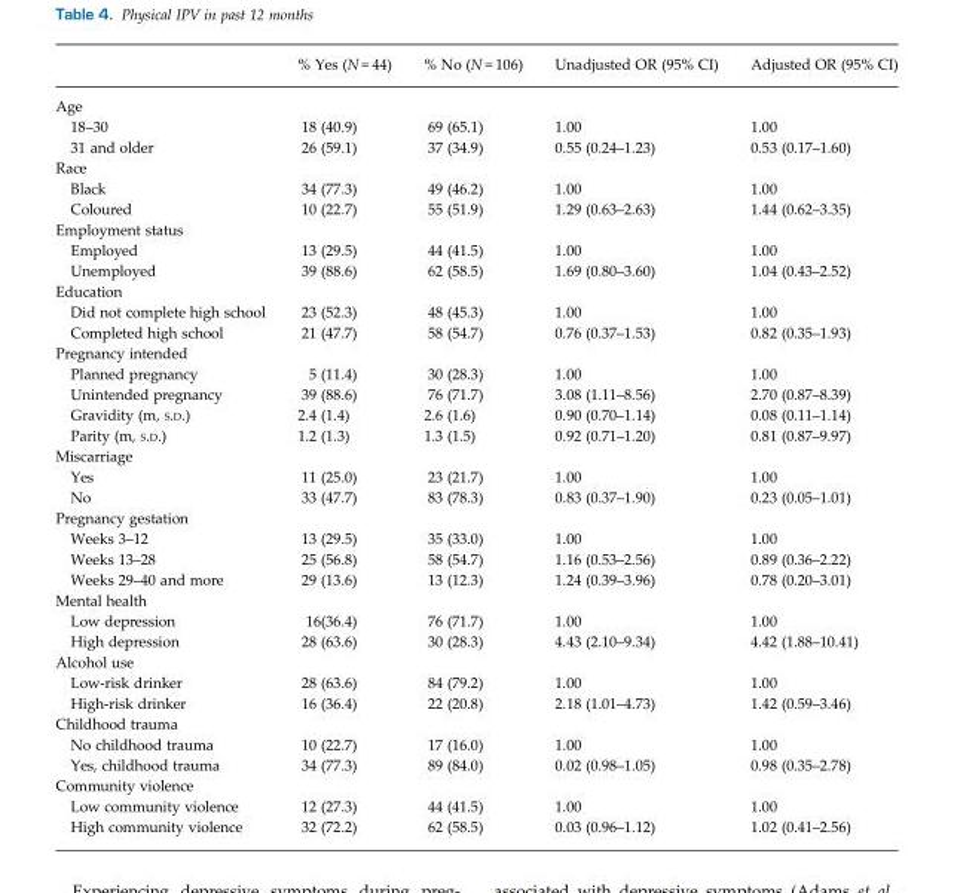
<table><thead><tr><td></td><td>% Yes (N = 44)</td><td>% No (N = 106)</td><td>Unadjusted OR (95% CI)</td><td>Adjusted OR (95% CI)</td></tr></thead><tbody><tr><td colspan="5">Age</td></tr><tr><td>18–30</td><td>18 (40.9)</td><td>69 (65.1)</td><td>1.00</td><td>1.00</td></tr><tr><td>31 and older</td><td>26 (59.1)</td><td>37 (34.9)</td><td>0.55 (0.24–1.23)</td><td>0.53 (0.17–1.60)</td></tr><tr><td colspan="5">Race</td></tr><tr><td>Black</td><td>34 (77.3)</td><td>49 (46.2)</td><td>1.00</td><td>1.00</td></tr><tr><td>Coloured</td><td>10 (22.7)</td><td>55 (51.9)</td><td>1.29 (0.63–2.63)</td><td>1.44 (0.62–3.35)</td></tr><tr><td colspan="5">Employment status</td></tr><tr><td>Employed</td><td>13 (29.5)</td><td>44 (41.5)</td><td>1.00</td><td>1.00</td></tr><tr><td>Unemployed</td><td>39 (88.6)</td><td>62 (58.5)</td><td>1.69 (0.80–3.60)</td><td>1.04 (0.43–2.52)</td></tr><tr><td colspan="5">Education</td></tr><tr><td>Did not complete high school</td><td>23 (52.3)</td><td>48 (45.3)</td><td>1.00</td><td>1.00</td></tr><tr><td>Completed high school</td><td>21 (47.7)</td><td>58 (54.7)</td><td>0.76 (0.37–1.53)</td><td>0.82 (0.35–1.93)</td></tr><tr><td colspan="5">Pregnancy intended</td></tr><tr><td>Planned pregnancy</td><td>5 (11.4)</td><td>30 (28.3)</td><td>1.00</td><td>1.00</td></tr><tr><td>Unintended pregnancy</td><td>39 (88.6)</td><td>76 (71.7)</td><td>3.08 (1.11–8.56)</td><td>2.70 (0.87–8.39)</td></tr><tr><td>Gravidity (m, S.D.)</td><td>2.4 (1.4)</td><td>2.6 (1.6)</td><td>0.90 (0.70–1.14)</td><td>0.08 (0.11–1.14)</td></tr><tr><td>Parity (m, S.D.)</td><td>1.2 (1.3)</td><td>1.3 (1.5)</td><td>0.92 (0.71–1.20)</td><td>0.81 (0.87–9.97)</td></tr><tr><td colspan="5">Miscarriage</td></tr><tr><td>Yes</td><td>11 (25.0)</td><td>23 (21.7)</td><td>1.00</td><td>1.00</td></tr><tr><td>No</td><td>33 (47.7)</td><td>83 (78.3)</td><td>0.83 (0.37–1.90)</td><td>0.23 (0.05–1.01)</td></tr><tr><td colspan="5">Pregnancy gestation</td></tr><tr><td>Weeks 3–12</td><td>13 (29.5)</td><td>35 (33.0)</td><td>1.00</td><td>1.00</td></tr><tr><td>Weeks 13–28</td><td>25 (56.8)</td><td>58 (54.7)</td><td>1.16 (0.53–2.56)</td><td>0.89 (0.36–2.22)</td></tr><tr><td>Weeks 29–40 and more</td><td>29 (13.6)</td><td>13 (12.3)</td><td>1.24 (0.39–3.96)</td><td>0.78 (0.20–3.01)</td></tr><tr><td colspan="5">Mental health</td></tr><tr><td>Low depression</td><td>16(36.4)</td><td>76 (71.7)</td><td>1.00</td><td>1.00</td></tr><tr><td>High depression</td><td>28 (63.6)</td><td>30 (28.3)</td><td>4.43 (2.10–9.34)</td><td>4.42 (1.88–10.41)</td></tr><tr><td colspan="5">Alcohol use</td></tr><tr><td>Low-risk drinker</td><td>28 (63.6)</td><td>84 (79.2)</td><td>1.00</td><td>1.00</td></tr><tr><td>High-risk drinker</td><td>16 (36.4)</td><td>22 (20.8)</td><td>2.18 (1.01–4.73)</td><td>1.42 (0.59–3.46)</td></tr><tr><td colspan="5">Childhood trauma</td></tr><tr><td>No childhood trauma</td><td>10 (22.7)</td><td>17 (16.0)</td><td>1.00</td><td>1.00</td></tr><tr><td>Yes, childhood trauma</td><td>34 (77.3)</td><td>89 (84.0)</td><td>0.02 (0.98–1.05)</td><td>0.98 (0.35–2.78)</td></tr><tr><td colspan="5">Community violence</td></tr><tr><td>Low community violence</td><td>12 (27.3)</td><td>44 (41.5)</td><td>1.00</td><td>1.00</td></tr><tr><td>High community violence</td><td>32 (72.2)</td><td>62 (58.5)</td><td>0.03 (0.96–1.12)</td><td>1.02 (0.41–2.56)</td></tr></tbody></table>